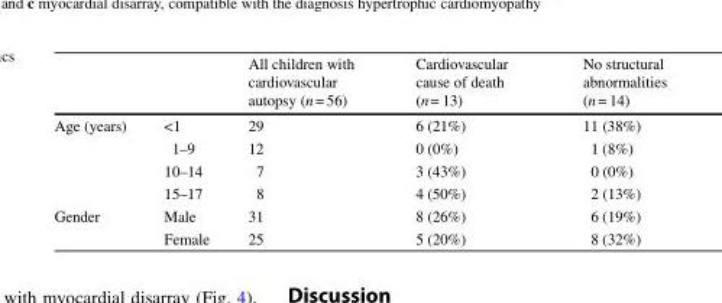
<table><thead><tr><td></td><td></td><td>All children with cardiovascular autopsy (n= 56)</td><td>Cardiovascular cause of death (n= 13)</td><td>No structural abnormalities (n= 14)</td></tr></thead><tbody><tr><td rowspan="4">Age (years)</td><td>&lt;1</td><td>29</td><td>6 (21%)</td><td>11 (38%)</td></tr><tr><td>1–9</td><td>12</td><td>0 (0%)</td><td>1 (8%)</td></tr><tr><td>10–14</td><td>7</td><td>3 (43%)</td><td>0 (0%)</td></tr><tr><td>15–17</td><td>8</td><td>4 (50%)</td><td>2 (13%)</td></tr><tr><td rowspan="2">Gender</td><td>Male</td><td>31</td><td>8 (26%)</td><td>6 (19%)</td></tr><tr><td>Female</td><td>25</td><td>5 (20%)</td><td>8 (32%)</td></tr></tbody></table>